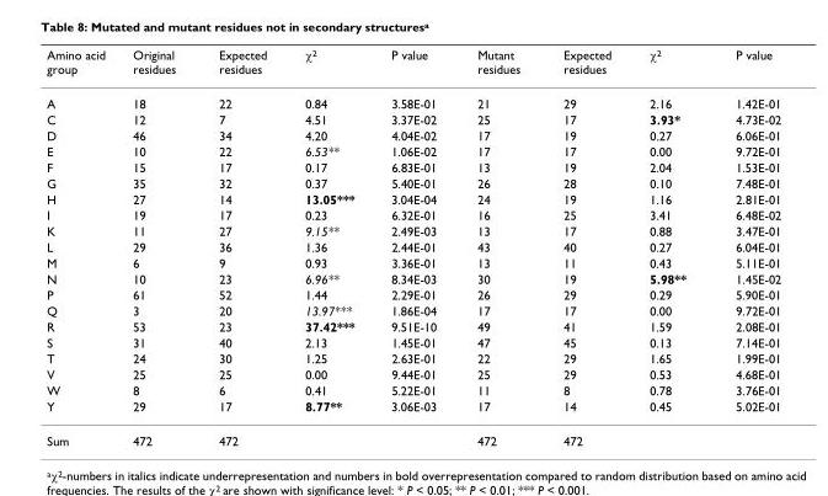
<table><thead><tr><td>Amino acid group</td><td>Original residues</td><td>Expected residues</td><td>χ<sup>2</sup></td><td>P value</td><td>Mutant residues</td><td>Expected residues</td><td>χ<sup>2</sup></td><td>P value</td></tr></thead><tbody><tr><td>A</td><td>18</td><td>22</td><td>0.84</td><td>3.58E-01</td><td>21</td><td>29</td><td>2.16</td><td>1.42E-01</td></tr><tr><td>C</td><td>12</td><td>7</td><td>4.51</td><td>3.37E-02</td><td>25</td><td>17</td><td>3.93*</td><td>4.73E-02</td></tr><tr><td>D</td><td>46</td><td>34</td><td>4.20</td><td>4.04E-02</td><td>17</td><td>19</td><td>0.27</td><td>6.06E-01</td></tr><tr><td>E</td><td>10</td><td>22</td><td>6.53**</td><td>1.06E-02</td><td>17</td><td>17</td><td>0.00</td><td>9.72E-01</td></tr><tr><td>F</td><td>15</td><td>17</td><td>0.17</td><td>6.83E-01</td><td>13</td><td>19</td><td>2.04</td><td>1.53E-01</td></tr><tr><td>G</td><td>35</td><td>32</td><td>0.37</td><td>5.40E-01</td><td>26</td><td>28</td><td>0.10</td><td>7.48E-01</td></tr><tr><td>H</td><td>27</td><td>14</td><td>13.05***</td><td>3.04E-04</td><td>24</td><td>19</td><td>1.16</td><td>2.81E-01</td></tr><tr><td>I</td><td>19</td><td>17</td><td>0.23</td><td>6.32E-01</td><td>16</td><td>25</td><td>3.41</td><td>6.48E-02</td></tr><tr><td>K</td><td>11</td><td>27</td><td>9.15**</td><td>2.49E-03</td><td>13</td><td>17</td><td>0.88</td><td>3.47E-01</td></tr><tr><td>L</td><td>29</td><td>36</td><td>1.36</td><td>2.44E-01</td><td>43</td><td>40</td><td>0.27</td><td>6.04E-01</td></tr><tr><td>M</td><td>6</td><td>9</td><td>0.93</td><td>3.36E-01</td><td>13</td><td>11</td><td>0.43</td><td>5.11E-01</td></tr><tr><td>N</td><td>10</td><td>23</td><td>6.96**</td><td>8.34E-03</td><td>30</td><td>19</td><td>5.98**</td><td>1.45E-02</td></tr><tr><td>P</td><td>61</td><td>52</td><td>1.44</td><td>2.29E-01</td><td>26</td><td>29</td><td>0.29</td><td>5.90E-01</td></tr><tr><td>Q</td><td>3</td><td>20</td><td>13.97***</td><td>1.86E-04</td><td>17</td><td>17</td><td>0.00</td><td>9.72E-01</td></tr><tr><td>R</td><td>53</td><td>23</td><td>37.42***</td><td>9.51E-10</td><td>49</td><td>41</td><td>1.59</td><td>2.08E-01</td></tr><tr><td>S</td><td>31</td><td>40</td><td>2.13</td><td>1.45E-01</td><td>47</td><td>45</td><td>0.13</td><td>7.14E-01</td></tr><tr><td>T</td><td>24</td><td>30</td><td>1.25</td><td>2.63E-01</td><td>22</td><td>29</td><td>1.65</td><td>1.99E-01</td></tr><tr><td>V</td><td>25</td><td>25</td><td>0.00</td><td>9.44E-01</td><td>25</td><td>29</td><td>0.53</td><td>4.68E-01</td></tr><tr><td>W</td><td>8</td><td>6</td><td>0.41</td><td>5.22E-01</td><td>11</td><td>8</td><td>0.78</td><td>3.76E-01</td></tr><tr><td>Y</td><td>29</td><td>17</td><td>8.77**</td><td>3.06E-03</td><td>17</td><td>14</td><td>0.45</td><td>5.02E-01</td></tr><tr><td>Sum</td><td>472</td><td>472</td><td></td><td></td><td>472</td><td>472</td><td></td><td></td></tr></tbody></table>